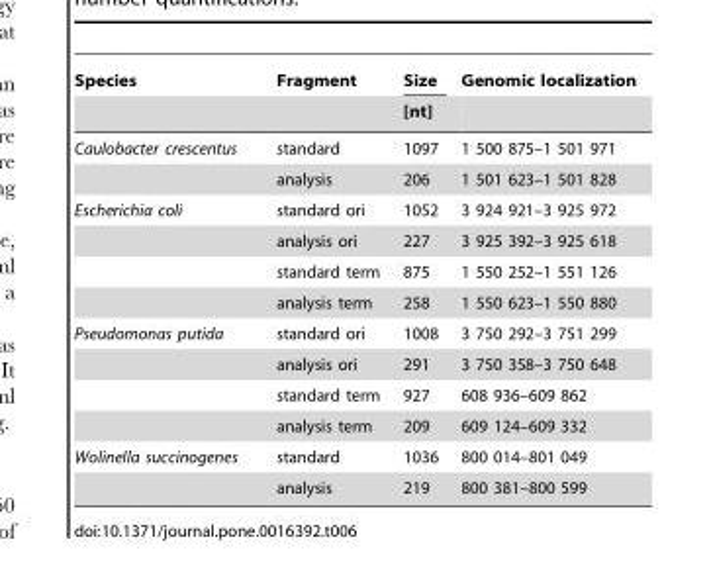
<table><thead><tr><td rowspan="2">Species</td><td rowspan="2">Fragment</td><td rowspan="2">Size [nt]</td><td rowspan="2">Genomic localization</td></tr><tr></tr></thead><tbody><tr><td rowspan="2">Caulobacter crescentus</td><td>standard</td><td>1097</td><td>1 500 875–1 501 971</td></tr><tr><td>analysis</td><td>206</td><td>1 501 623–1 501 828</td></tr><tr><td rowspan="4">Escherichia coli</td><td>standard ori</td><td>1052</td><td>3 924 921–3 925 972</td></tr><tr><td>analysis ori</td><td>227</td><td>3 925 392–3 925 618</td></tr><tr><td>standard term</td><td>875</td><td>1 550 252–1 551 126</td></tr><tr><td>analysis term</td><td>258</td><td>1 550 623–1 550 880</td></tr><tr><td rowspan="4">Pseudomonas putida</td><td>standard ori</td><td>1008</td><td>3 750 292–3 751 299</td></tr><tr><td>analysis ori</td><td>291</td><td>3 750 358–3 750 648</td></tr><tr><td>standard term</td><td>927</td><td>608 936–609 862</td></tr><tr><td>analysis term</td><td>209</td><td>609 124–609 332</td></tr><tr><td rowspan="2">Wolinella succinogenes</td><td>standard</td><td>1036</td><td>800 014–801 049</td></tr><tr><td>analysis</td><td>219</td><td>800 381–800 599</td></tr></tbody></table>